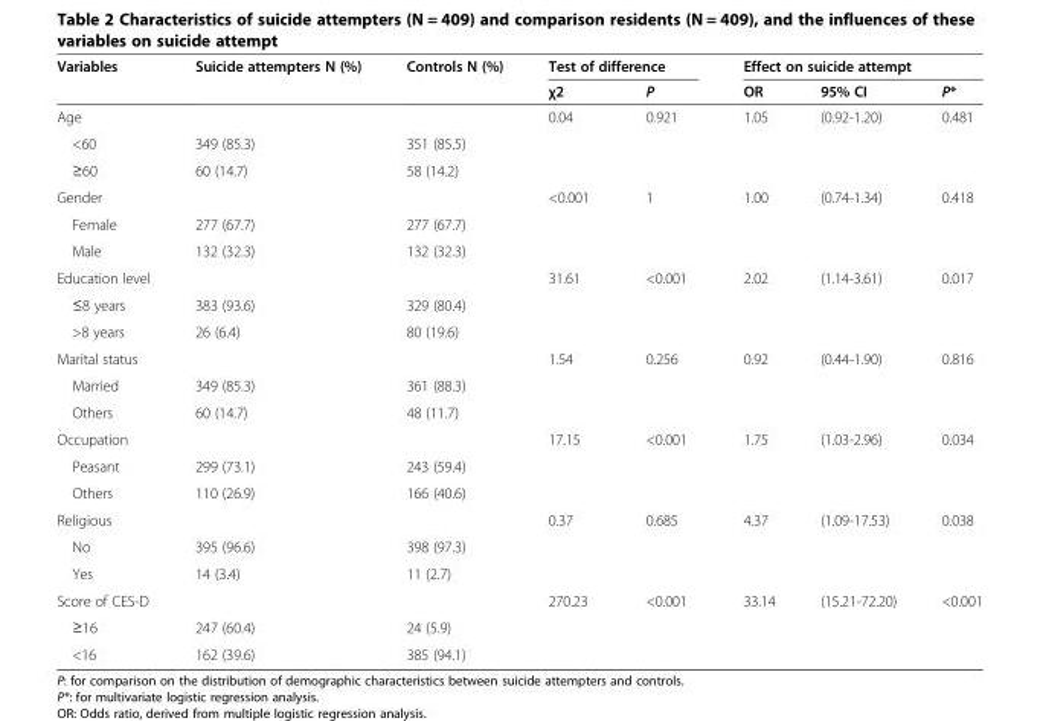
<table><thead><tr><td rowspan="2">Variables</td><td rowspan="2">Suicide attempters N (%)</td><td rowspan="2">Controls N (%)</td><td colspan="2">Test of difference</td><td colspan="3">Effect on suicide attempt</td></tr><tr><td>χ2</td><td>P</td><td>OR</td><td>95% CI</td><td>P*</td></tr></thead><tbody><tr><td>Age</td><td></td><td></td><td>0.04</td><td>0.921</td><td>1.05</td><td>(0.92-1.20)</td><td>0.481</td></tr><tr><td>&lt;60</td><td>349 (85.3)</td><td>351 (85.5)</td><td></td><td></td><td></td><td></td><td></td></tr><tr><td>≥60</td><td>60 (14.7)</td><td>58 (14.2)</td><td></td><td></td><td></td><td></td><td></td></tr><tr><td>Gender</td><td></td><td></td><td>&lt;0.001</td><td>1</td><td>1.00</td><td>(0.74-1.34)</td><td>0.418</td></tr><tr><td>Female</td><td>277 (67.7)</td><td>277 (67.7)</td><td></td><td></td><td></td><td></td><td></td></tr><tr><td>Male</td><td>132 (32.3)</td><td>132 (32.3)</td><td></td><td></td><td></td><td></td><td></td></tr><tr><td>Education level</td><td></td><td></td><td>31.61</td><td>&lt;0.001</td><td>2.02</td><td>(1.14-3.61)</td><td>0.017</td></tr><tr><td>≤8 years</td><td>383 (93.6)</td><td>329 (80.4)</td><td></td><td></td><td></td><td></td><td></td></tr><tr><td>&gt;8 years</td><td>26 (6.4)</td><td>80 (19.6)</td><td></td><td></td><td></td><td></td><td></td></tr><tr><td>Marital status</td><td></td><td></td><td>1.54</td><td>0.256</td><td>0.92</td><td>(0.44-1.90)</td><td>0.816</td></tr><tr><td>Married</td><td>349 (85.3)</td><td>361 (88.3)</td><td></td><td></td><td></td><td></td><td></td></tr><tr><td>Others</td><td>60 (14.7)</td><td>48 (11.7)</td><td></td><td></td><td></td><td></td><td></td></tr><tr><td>Occupation</td><td></td><td></td><td>17.15</td><td>&lt;0.001</td><td>1.75</td><td>(1.03-2.96)</td><td>0.034</td></tr><tr><td>Peasant</td><td>299 (73.1)</td><td>243 (59.4)</td><td></td><td></td><td></td><td></td><td></td></tr><tr><td>Others</td><td>110 (26.9)</td><td>166 (40.6)</td><td></td><td></td><td></td><td></td><td></td></tr><tr><td>Religious</td><td></td><td></td><td>0.37</td><td>0.685</td><td>4.37</td><td>(1.09-17.53)</td><td>0.038</td></tr><tr><td>No</td><td>395 (96.6)</td><td>398 (97.3)</td><td></td><td></td><td></td><td></td><td></td></tr><tr><td>Yes</td><td>14 (3.4)</td><td>11 (2.7)</td><td></td><td></td><td></td><td></td><td></td></tr><tr><td>Score of CES-D</td><td></td><td></td><td>270.23</td><td>&lt;0.001</td><td>33.14</td><td>(15.21-72.20)</td><td>&lt;0.001</td></tr><tr><td>≥16</td><td>247 (60.4)</td><td>24 (5.9)</td><td></td><td></td><td></td><td></td><td></td></tr><tr><td>&lt;16</td><td>162 (39.6)</td><td>385 (94.1)</td><td></td><td></td><td></td><td></td><td></td></tr></tbody></table>